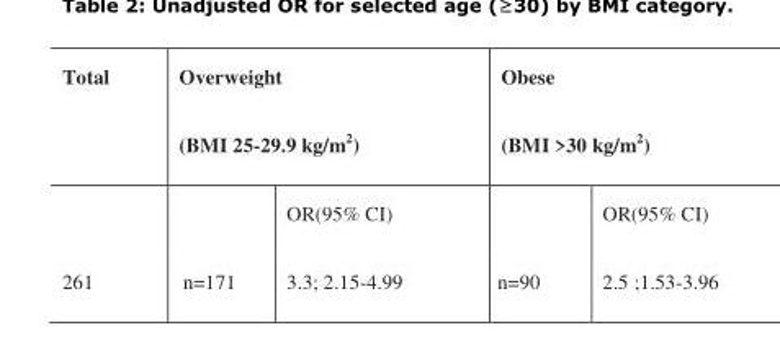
<table><thead><tr><td rowspan="2">Total</td><td colspan="2">Overweight (BMI 25-29.9 kg/m<sup>2</sup>)</td><td colspan="2">Obese (BMI &gt;30 kg/m2)</td></tr><tr><td></td><td>OR(95% CI)</td><td></td><td>OR(95% CI)</td></tr></thead><tbody><tr><td>261</td><td>n=171</td><td>3.3; 2.15-4.99</td><td>n=90</td><td>2.5 ;1.53-3.96</td></tr></tbody></table>